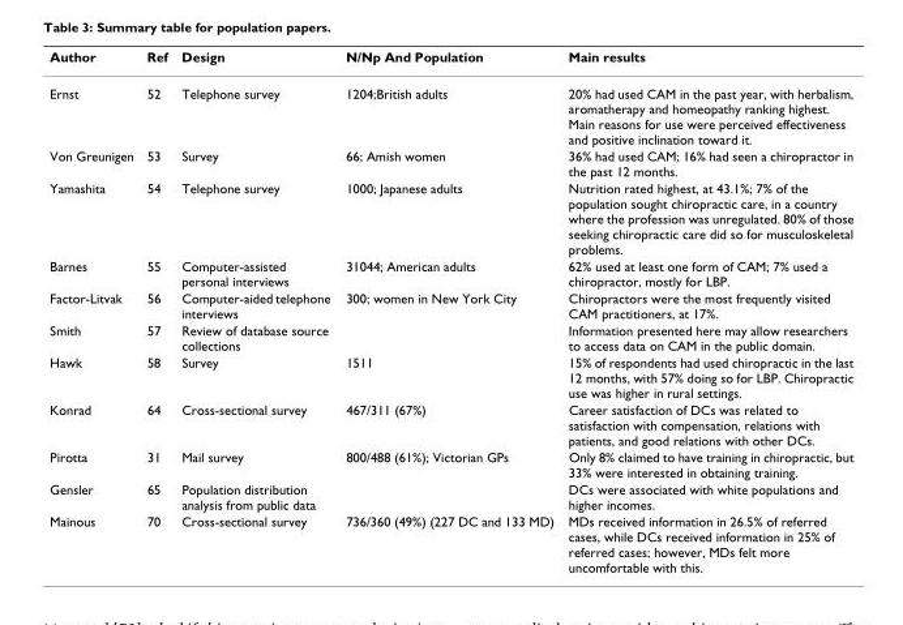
<table><thead><tr><td>Author</td><td>Ref</td><td>Design</td><td>N/Np And Population</td><td>Main results</td></tr></thead><tbody><tr><td>Ernst</td><td>52</td><td>Telephone survey</td><td>1204;British adults</td><td>20% had used CAM in the past year, with herbalism, aromatherapy and homeopathy ranking highest. Main reasons for use were perceived effectiveness and positive inclination toward it.</td></tr><tr><td>Von Greunigen</td><td>53</td><td>Survey</td><td>66; Amish women</td><td>36% had used CAM; 16% had seen a chiropractor in the past 12 months.</td></tr><tr><td>Yamashita</td><td>54</td><td>Telephone survey</td><td>1000; Japanese adults</td><td>Nutrition rated highest, at 43.1%; 7% of the population sought chiropractic care, in a country where the profession was unregulated. 80% of those seeking chiropractic care did so for musculoskeletal problems.</td></tr><tr><td>Barnes</td><td>55</td><td>Computer-assisted personal interviews</td><td>31044; American adults</td><td>62% used at least one form of CAM; 7% used a chiropractor, mostly for LBP.</td></tr><tr><td>Factor-Litvak</td><td>56</td><td>Computer-aided telephone interviews</td><td>300; women in New York City</td><td>Chiropractors were the most frequently visited CAM practitioners, at 17%.</td></tr><tr><td>Smith</td><td>57</td><td>Review of database source collections</td><td></td><td>Information presented here may allow researchers to access data on CAM in the public domain.</td></tr><tr><td>Hawk</td><td>58</td><td>Survey</td><td>1511</td><td>15% of respondents had used chiropractic in the last 12 months, with 57% doing so for LBP. Chiropractic use was higher in rural settings.</td></tr><tr><td>Konrad</td><td>64</td><td>Cross-sectional survey</td><td>467/311 (67%)</td><td>Career satisfaction of DCs was related to satisfaction with compensation, relations with patients, and good relations with other DCs.</td></tr><tr><td>Pirotta</td><td>31</td><td>Mail survey</td><td>800/488 (61%); Victorian GPs</td><td>Only 8% claimed to have training in chiropractic, but 33% were interested in obtaining training.</td></tr><tr><td>Gensler</td><td>65</td><td>Population distribution analysis from public data</td><td></td><td>DCs were associated with white populations and higher incomes.</td></tr><tr><td>Mainous</td><td>70</td><td>Cross-sectional survey</td><td>736/360 (49%) (227 DC and 133 MD)</td><td>MDs received information in 26.5% of referred cases, while DCs received information in 25% of referred cases; however, MDs felt more uncomfortable with this.</td></tr></tbody></table>